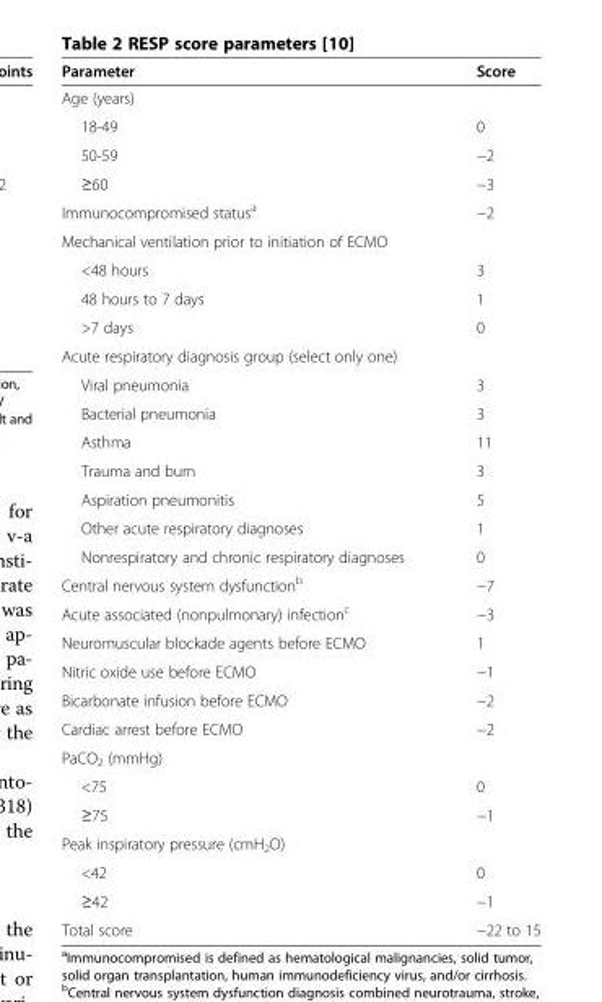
<table><thead><tr><td>Parameter</td><td>Score</td></tr></thead><tbody><tr><td colspan="2">Age (years)</td></tr><tr><td>18-49</td><td>0</td></tr><tr><td>50-59</td><td>−2</td></tr><tr><td>≥60</td><td>−3</td></tr><tr><td>Immunocompromised status<sup>a</sup></td><td>−2</td></tr><tr><td colspan="2">Mechanical ventilation prior to initiation of ECMO</td></tr><tr><td>&lt;48 hours</td><td>3</td></tr><tr><td>48 hours to 7 days</td><td>1</td></tr><tr><td>&gt;7 days</td><td>0</td></tr><tr><td colspan="2">Acute respiratory diagnosis group (select only one)</td></tr><tr><td>Viral pneumonia</td><td>3</td></tr><tr><td>Bacterial pneumonia</td><td>3</td></tr><tr><td>Asthma</td><td>11</td></tr><tr><td>Trauma and burn</td><td>3</td></tr><tr><td>Aspiration pneumonitis</td><td>5</td></tr><tr><td>Other acute respiratory diagnoses</td><td>1</td></tr><tr><td>Nonrespiratory and chronic respiratory diagnoses</td><td>0</td></tr><tr><td>Central nervous system dysfunction<sup>b</sup></td><td>−7</td></tr><tr><td>Acute associated (nonpulmonary) infection<sup>c</sup></td><td>−3</td></tr><tr><td>Neuromuscular blockade agents before ECMO</td><td>1</td></tr><tr><td>Nitric oxide use before ECMO</td><td>−1</td></tr><tr><td>Bicarbonate infusion before ECMO</td><td>−2</td></tr><tr><td>Cardiac arrest before ECMO</td><td>−2</td></tr><tr><td colspan="2">PaCO<sub>2</sub> (mmHg)</td></tr><tr><td>&lt;75</td><td>0</td></tr><tr><td>≥75</td><td>−1</td></tr><tr><td colspan="2">Peak inspiratory pressure (cmH<sub>2</sub>O)</td></tr><tr><td>&lt;42</td><td>0</td></tr><tr><td>≥42</td><td>−1</td></tr><tr><td>Total score</td><td>−22 to 15</td></tr></tbody></table>